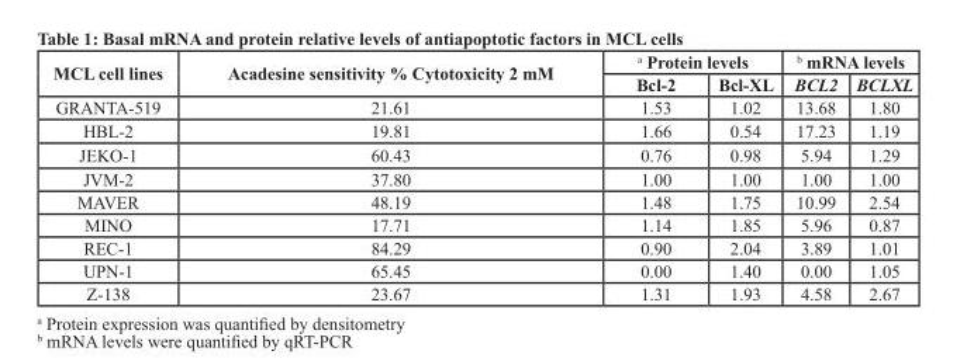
<table><thead><tr><td rowspan="2">MCL cell lines</td><td rowspan="2">Acadesine sensitivity % Cytotoxicity 2 mM</td><td colspan="2"><sup>a</sup> Protein levels</td><td colspan="2"><sup>b</sup> mRNA levels</td></tr><tr><td>Bcl-2</td><td>Bcl-XL</td><td>BCL2</td><td>BCLXL</td></tr></thead><tbody><tr><td>GRANTA-519</td><td>21.61</td><td>1.53</td><td>1.02</td><td>13.68</td><td>1.80</td></tr><tr><td>HBL-2</td><td>19.81</td><td>1.66</td><td>0.54</td><td>17.23</td><td>1.19</td></tr><tr><td>JEKO-1</td><td>60.43</td><td>0.76</td><td>0.98</td><td>5.94</td><td>1.29</td></tr><tr><td>JVM-2</td><td>37.80</td><td>1.00</td><td>1.00</td><td>1.00</td><td>1.00</td></tr><tr><td>MAVER</td><td>48.19</td><td>1.48</td><td>1.75</td><td>10.99</td><td>2.54</td></tr><tr><td>MINO</td><td>17.71</td><td>1.14</td><td>1.85</td><td>5.96</td><td>0.87</td></tr><tr><td>REC-1</td><td>84.29</td><td>0.90</td><td>2.04</td><td>3.89</td><td>1.01</td></tr><tr><td>UPN-1</td><td>65.45</td><td>0.00</td><td>1.40</td><td>0.00</td><td>1.05</td></tr><tr><td>Z-138</td><td>23.67</td><td>1.31</td><td>1.93</td><td>4.58</td><td>2.67</td></tr></tbody></table>